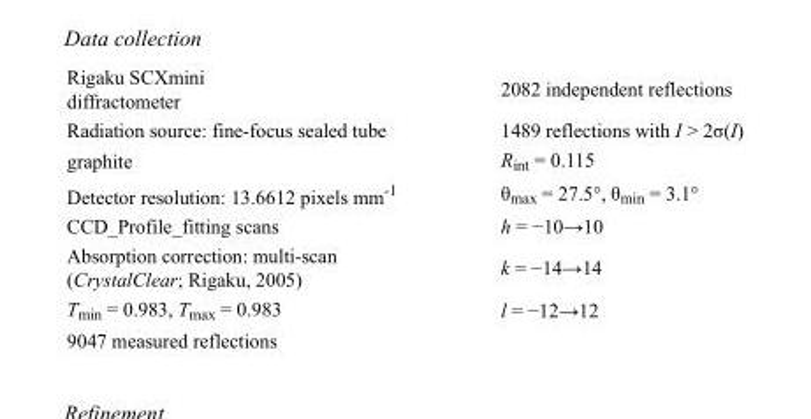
<table><tbody><tr><td>Rigaku SCXmini diffractometer</td><td>2082 independent reflections</td></tr><tr><td>Radiation source: fine-focus sealed tube</td><td>1489 reflections with I &gt; 2σ(I)</td></tr><tr><td>graphite</td><td>R<sub>int</sub> = 0.115</td></tr><tr><td>Detector resolution: 13.6612 pixels mm<sup>-1</sup></td><td>θ<sub>max</sub> = 27.5°, θ<sub>min</sub> = 3.1°</td></tr><tr><td>CCD_Profile_fitting scans</td><td>h = −10→10</td></tr><tr><td>Absorption correction: multi-scan (CrystalClear; Rigaku, 2005)</td><td>k = −14→14</td></tr><tr><td>T<sub>min</sub> = 0.983, T<sub>max</sub> = 0.983</td><td>l = −12→12</td></tr><tr><td>9047 measured reflections</td><td></td></tr></tbody></table>